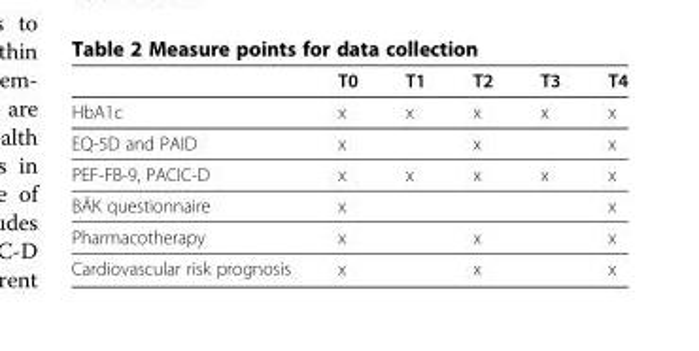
<table><thead><tr><td></td><td>T0</td><td>T1</td><td>T2</td><td>T3</td><td>T4</td></tr></thead><tbody><tr><td>HbA1c</td><td>x</td><td>x</td><td>x</td><td>x</td><td>x</td></tr><tr><td>EQ-5D and PAID</td><td>x</td><td></td><td>x</td><td></td><td>x</td></tr><tr><td>PEF-FB-9, PACIC-D</td><td>x</td><td>x</td><td>x</td><td>x</td><td>x</td></tr><tr><td>BÄK questionnaire</td><td>x</td><td></td><td></td><td></td><td>x</td></tr><tr><td>Pharmacotherapy</td><td>x</td><td></td><td>x</td><td></td><td>x</td></tr><tr><td>Cardiovascular risk prognosis</td><td>x</td><td></td><td>x</td><td></td><td>x</td></tr></tbody></table>